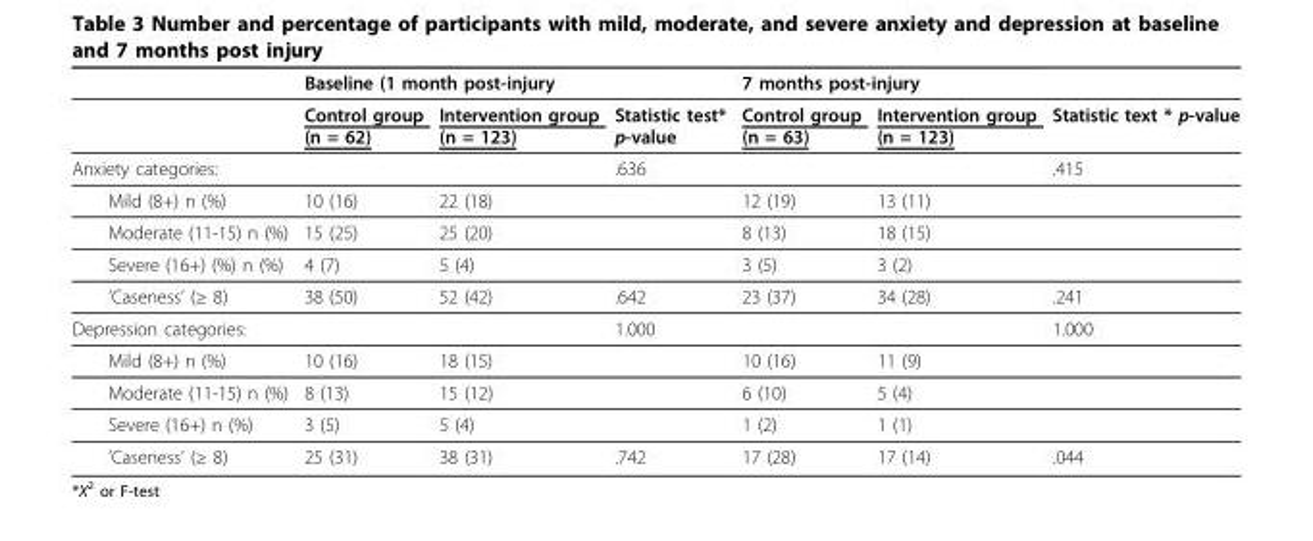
<table><thead><tr><td rowspan="2"></td><td colspan="3">Baseline (1 month post-injury</td><td colspan="3">7 months post-injury</td></tr><tr><td>Control group (n = 62)</td><td>Intervention group (n = 123)</td><td>Statistic test* p-value</td><td>Control group (n = 63)</td><td>Intervention group (n = 123)</td><td>Statistic text * p-value</td></tr></thead><tbody><tr><td>Anxiety categories:</td><td></td><td></td><td>.636</td><td></td><td></td><td>.415</td></tr><tr><td>Mild (8+) n (%)</td><td>10 (16)</td><td>22 (18)</td><td></td><td>12 (19)</td><td>13 (11)</td><td></td></tr><tr><td>Moderate (11-15) n (%)</td><td>15 (25)</td><td>25 (20)</td><td></td><td>8 (13)</td><td>18 (15)</td><td></td></tr><tr><td>Severe (16+) (%) n (%)</td><td>4 (7)</td><td>5 (4)</td><td></td><td>3 (5)</td><td>3 (2)</td><td></td></tr><tr><td>’Caseness’ (≥ 8)</td><td>38 (50)</td><td>52 (42)</td><td>.642</td><td>23 (37)</td><td>34 (28)</td><td>.241</td></tr><tr><td>Depression categories:</td><td></td><td></td><td>1.000</td><td></td><td></td><td>1.000</td></tr><tr><td>Mild (8+) n (%)</td><td>10 (16)</td><td>18 (15)</td><td></td><td>10 (16)</td><td>11 (9)</td><td></td></tr><tr><td>Moderate (11-15) n (%)</td><td>8 (13)</td><td>15 (12)</td><td></td><td>6 (10)</td><td>5 (4)</td><td></td></tr><tr><td>Severe (16+) n (%)</td><td>3 (5)</td><td>5 (4)</td><td></td><td>1 (2)</td><td>1 (1)</td><td></td></tr><tr><td>’Caseness’ (≥ 8)</td><td>25 (31)</td><td>38 (31)</td><td>.742</td><td>17 (28)</td><td>17 (14)</td><td>.044</td></tr></tbody></table>